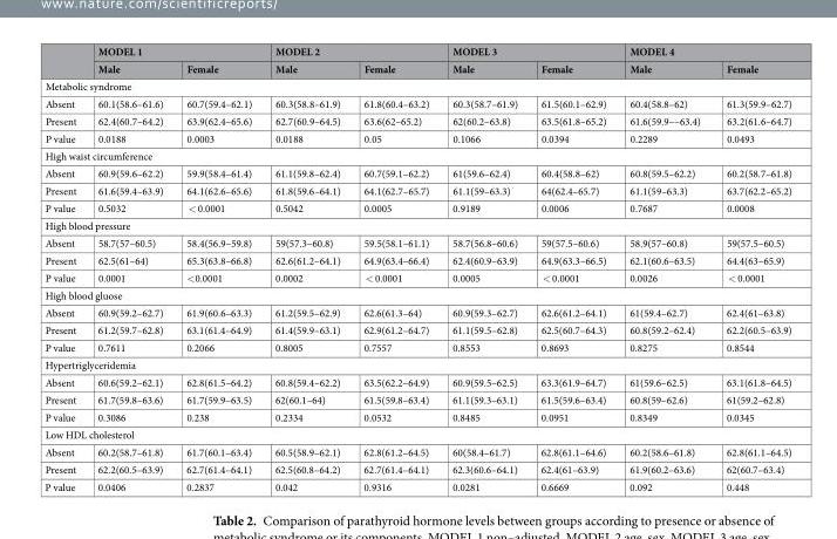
<table><thead><tr><td rowspan="2"></td><td colspan="2">MODEL 1</td><td colspan="2">MODEL 2</td><td colspan="2">MODEL 3</td><td colspan="2">MODEL 4</td></tr><tr><td>Male</td><td>Female</td><td>Male</td><td>Female</td><td>Male</td><td>Female</td><td>Male</td><td>Female</td></tr></thead><tbody><tr><td colspan="9">Metabolic syndrome</td></tr><tr><td>Absent</td><td>60.1(58.6–61.6)</td><td>60.7(59.4–62.1)</td><td>60.3(58.8–61.9)</td><td>61.8(60.4–63.2)</td><td>60.3(58.7–61.9)</td><td>61.5(60.1–62.9)</td><td>60.4(58.8–62)</td><td>61.3(59.9–62.7)</td></tr><tr><td>Present</td><td>62.4(60.7–64.2)</td><td>63.9(62.4–65.6)</td><td>62.7(60.9–64.5)</td><td>63.6(62–65.2)</td><td>62(60.2–63.8)</td><td>63.5(61.8–65.2)</td><td>61.6(59.9––63.4)</td><td>63.2(61.6–64.7)</td></tr><tr><td>P value</td><td>0.0188</td><td>0.0003</td><td>0.0188</td><td>0.05</td><td>0.1066</td><td>0.0394</td><td>0.2289</td><td>0.0493</td></tr><tr><td colspan="9">High waist circumference</td></tr><tr><td>Absent</td><td>60.9(59.6–62.2)</td><td>59.9(58.4–61.4)</td><td>61.1(59.8–62.4)</td><td>60.7(59.1–62.2)</td><td>61(59.6–62.4)</td><td>60.4(58.8–62)</td><td>60.8(59.5–62.2)</td><td>60.2(58.7–61.8)</td></tr><tr><td>Present</td><td>61.6(59.4–63.9)</td><td>64.1(62.6–65.6)</td><td>61.8(59.6–64.1)</td><td>64.1(62.7–65.7)</td><td>61.1(59–63.3)</td><td>64(62.4–65.7)</td><td>61.1(59–63.3)</td><td>63.7(62.2–65.2)</td></tr><tr><td>P value</td><td>0.5032</td><td>&lt; 0.0001</td><td>0.5042</td><td>0.0005</td><td>0.9189</td><td>0.0006</td><td>0.7687</td><td>0.0008</td></tr><tr><td colspan="9">High blood pressure</td></tr><tr><td>Absent</td><td>58.7(57–60.5)</td><td>58.4(56.9–59.8)</td><td>59(57.3–60.8)</td><td>59.5(58.1–61.1)</td><td>58.7(56.8–60.6)</td><td>59(57.5–60.6)</td><td>58.9(57–60.8)</td><td>59(57.5–60.5)</td></tr><tr><td>Present</td><td>62.5(61–64)</td><td>65.3(63.8–66.8)</td><td>62.6(61.2–64.1)</td><td>64.9(63.4–66.4)</td><td>62.4(60.9–63.9)</td><td>64.9(63.3–66.5)</td><td>62.1(60.6–63.5)</td><td>64.4(63–65.9)</td></tr><tr><td>P value</td><td>0.0001</td><td>&lt;0.0001</td><td>0.0002</td><td>&lt; 0.0001</td><td>0.0005</td><td>&lt; 0.0001</td><td>0.0026</td><td>&lt; 0.0001</td></tr><tr><td colspan="9">High blood gluose</td></tr><tr><td>Absent</td><td>60.9(59.2–62.7)</td><td>61.9(60.6–63.3)</td><td>61.2(59.5–62.9)</td><td>62.6(61.3–64)</td><td>60.9(59.3–62.7)</td><td>62.6(61.2–64.1)</td><td>61(59.4–62.7)</td><td>62.4(61–63.8)</td></tr><tr><td>Present</td><td>61.2(59.7–62.8)</td><td>63.1(61.4–64.9)</td><td>61.4(59.9–63.1)</td><td>62.9(61.2–64.7)</td><td>61.1(59.5–62.8)</td><td>62.5(60.7–64.3)</td><td>60.8(59.2–62.4)</td><td>62.2(60.5–63.9)</td></tr><tr><td>P value</td><td>0.7611</td><td>0.2066</td><td>0.8005</td><td>0.7557</td><td>0.8553</td><td>0.8693</td><td>0.8275</td><td>0.8544</td></tr><tr><td colspan="9">Hypertriglyceridemia</td></tr><tr><td>Absent</td><td>60.6(59.2–62.1)</td><td>62.8(61.5–64.2)</td><td>60.8(59.4–62.2)</td><td>63.5(62.2–64.9)</td><td>60.9(59.5–62.5)</td><td>63.3(61.9–64.7)</td><td>61(59.6–62.5)</td><td>63.1(61.8–64.5)</td></tr><tr><td>Present</td><td>61.7(59.8–63.6)</td><td>61.7(59.9–63.5)</td><td>62(60.1–64)</td><td>61.5(59.8–63.4)</td><td>61.1(59.3–63.1)</td><td>61.5(59.6–63.4)</td><td>60.8(59–62.6)</td><td>61(59.2–62.8)</td></tr><tr><td>P value</td><td>0.3086</td><td>0.238</td><td>0.2334</td><td>0.0532</td><td>0.8485</td><td>0.0951</td><td>0.8349</td><td>0.0345</td></tr><tr><td colspan="9">Low HDL cholesterol</td></tr><tr><td>Absent</td><td>60.2(58.7–61.8)</td><td>61.7(60.1–63.4)</td><td>60.5(58.9–62.1)</td><td>62.8(61.2–64.5)</td><td>60(58.4–61.7)</td><td>62.8(61.1–64.6)</td><td>60.2(58.6–61.8)</td><td>62.8(61.1–64.5)</td></tr><tr><td>Present</td><td>62.2(60.5–63.9)</td><td>62.7(61.4–64.1)</td><td>62.5(60.8–64.2)</td><td>62.7(61.4–64.1)</td><td>62.3(60.6–64.1)</td><td>62.4(61–63.9)</td><td>61.9(60.2–63.6)</td><td>62(60.7–63.4)</td></tr><tr><td>P value</td><td>0.0406</td><td>0.2837</td><td>0.042</td><td>0.9316</td><td>0.0281</td><td>0.6669</td><td>0.092</td><td>0.448</td></tr></tbody></table>